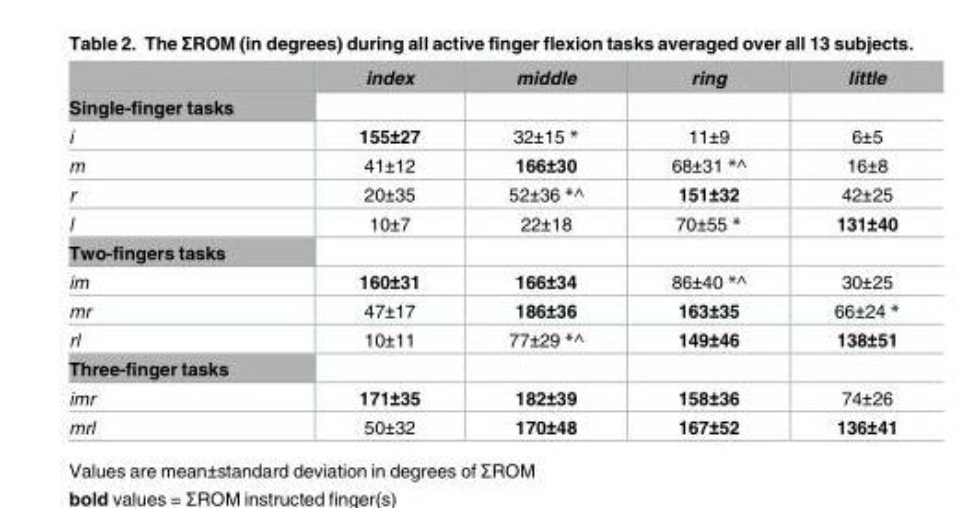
<table><thead><tr><td></td><td>index</td><td>middle</td><td>ring</td><td>little</td></tr></thead><tbody><tr><td colspan="5">Single-finger tasks</td></tr><tr><td>i</td><td>155±27</td><td>32±15 *</td><td>11±9</td><td>6±5</td></tr><tr><td>m</td><td>41±12</td><td>166±30</td><td>68±31 *^</td><td>16±8</td></tr><tr><td>r</td><td>20±35</td><td>52±36 *^</td><td>151±32</td><td>42±25</td></tr><tr><td>l</td><td>10±7</td><td>22±18</td><td>70±55 *</td><td>131±40</td></tr><tr><td colspan="5">Two-fingers tasks</td></tr><tr><td>im</td><td>160±31</td><td>166±34</td><td>86±40 *^</td><td>30±25</td></tr><tr><td>mr</td><td>47±17</td><td>186±36</td><td>163±35</td><td>66±24 *</td></tr><tr><td>rl</td><td>10±11</td><td>77±29 *^</td><td>149±46</td><td>138±51</td></tr><tr><td colspan="5">Three-finger tasks</td></tr><tr><td>imr</td><td>171±35</td><td>182±39</td><td>158±36</td><td>74±26</td></tr><tr><td>mrl</td><td>50±32</td><td>170±48</td><td>167±52</td><td>136±41</td></tr></tbody></table>